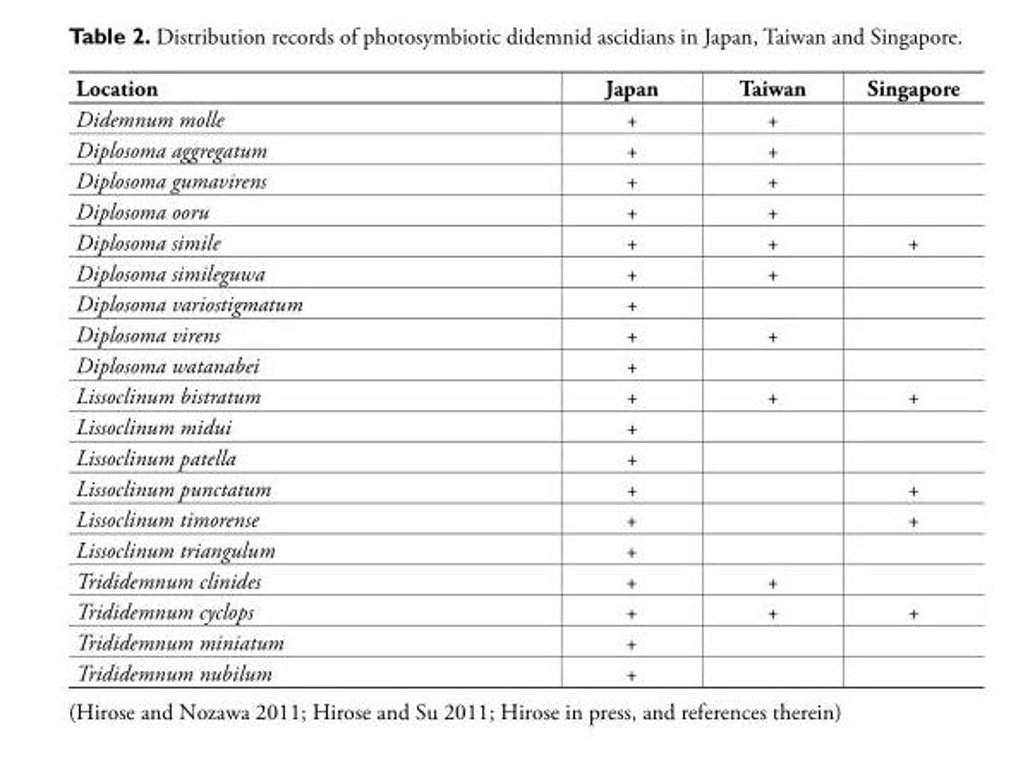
<table><thead><tr><td>Location</td><td>Japan</td><td>Taiwan</td><td>Singapore</td></tr></thead><tbody><tr><td>Didemnum molle</td><td>+</td><td>+</td><td></td></tr><tr><td>Diplosoma aggregatum</td><td>+</td><td>+</td><td></td></tr><tr><td>Diplosoma gumavirens</td><td>+</td><td>+</td><td></td></tr><tr><td>Diplosoma ooru</td><td>+</td><td>+</td><td></td></tr><tr><td>Diplosoma simile</td><td>+</td><td>+</td><td>+</td></tr><tr><td>Diplosoma simileguwa</td><td>+</td><td>+</td><td></td></tr><tr><td>Diplosoma variostigmatum</td><td>+</td><td></td><td></td></tr><tr><td>Diplosoma virens</td><td>+</td><td>+</td><td></td></tr><tr><td>Diplosoma watanabei</td><td>+</td><td></td><td></td></tr><tr><td>Lissoclinum bistratum</td><td>+</td><td>+</td><td>+</td></tr><tr><td>Lissoclinum midui</td><td>+</td><td></td><td></td></tr><tr><td>Lissoclinum patella</td><td>+</td><td></td><td></td></tr><tr><td>Lissoclinum punctatum</td><td>+</td><td></td><td>+</td></tr><tr><td>Lissoclinum timorense</td><td>+</td><td></td><td>+</td></tr><tr><td>Lissoclinum triangulum</td><td>+</td><td></td><td></td></tr><tr><td>Trididemnum clinides</td><td>+</td><td>+</td><td></td></tr><tr><td>Trididemnum cyclops</td><td>+</td><td>+</td><td>+</td></tr><tr><td>Trididemnum miniatum</td><td>+</td><td></td><td></td></tr><tr><td>Trididemnum nubilum</td><td>+</td><td></td><td></td></tr></tbody></table>